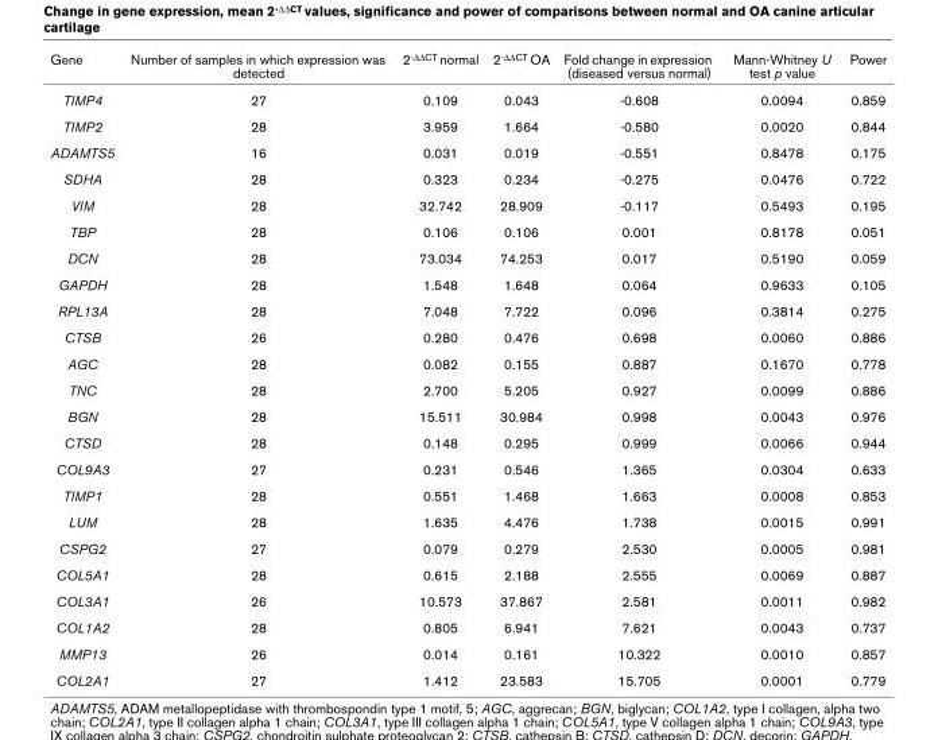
<table><thead><tr><td>Gene</td><td>Number of samples in which expression was detected</td><td>2-ΔΔCT normal</td><td>2-ΔΔCT OA</td><td>Fold change in expression (diseased versus normal)</td><td>Mann-Whitney U test p value</td><td>Power</td></tr></thead><tbody><tr><td>TIMP4</td><td>27</td><td>0.109</td><td>0.043</td><td>-0.608</td><td>0.0094</td><td>0.859</td></tr><tr><td>TIMP2</td><td>28</td><td>3.959</td><td>1.664</td><td>-0.580</td><td>0.0020</td><td>0.844</td></tr><tr><td>ADAMTS5</td><td>16</td><td>0.031</td><td>0.019</td><td>-0.551</td><td>0.8478</td><td>0.175</td></tr><tr><td>SDHA</td><td>28</td><td>0.323</td><td>0.234</td><td>-0.275</td><td>0.0476</td><td>0.722</td></tr><tr><td>VIM</td><td>28</td><td>32.742</td><td>28.909</td><td>-0.117</td><td>0.5493</td><td>0.195</td></tr><tr><td>TBP</td><td>28</td><td>0.106</td><td>0.106</td><td>0.001</td><td>0.8178</td><td>0.051</td></tr><tr><td>DCN</td><td>28</td><td>73.034</td><td>74.253</td><td>0.017</td><td>0.5190</td><td>0.059</td></tr><tr><td>GAPDH</td><td>28</td><td>1.548</td><td>1.648</td><td>0.064</td><td>0.9633</td><td>0.105</td></tr><tr><td>RPL13A</td><td>28</td><td>7.048</td><td>7.722</td><td>0.096</td><td>0.3814</td><td>0.275</td></tr><tr><td>CTSB</td><td>26</td><td>0.280</td><td>0.476</td><td>0.698</td><td>0.0060</td><td>0.886</td></tr><tr><td>AGC</td><td>28</td><td>0.082</td><td>0.155</td><td>0.887</td><td>0.1670</td><td>0.778</td></tr><tr><td>TNC</td><td>28</td><td>2.700</td><td>5.205</td><td>0.927</td><td>0.0099</td><td>0.886</td></tr><tr><td>BGN</td><td>28</td><td>15.511</td><td>30.984</td><td>0.998</td><td>0.0043</td><td>0.976</td></tr><tr><td>CTSD</td><td>28</td><td>0.148</td><td>0.295</td><td>0.999</td><td>0.0066</td><td>0.944</td></tr><tr><td>COL9A3</td><td>27</td><td>0.231</td><td>0.546</td><td>1.365</td><td>0.0304</td><td>0.633</td></tr><tr><td>TIMP1</td><td>28</td><td>0.551</td><td>1.468</td><td>1.663</td><td>0.0008</td><td>0.853</td></tr><tr><td>LUM</td><td>28</td><td>1.635</td><td>4.476</td><td>1.738</td><td>0.0015</td><td>0.991</td></tr><tr><td>CSPG2</td><td>27</td><td>0.079</td><td>0.279</td><td>2.530</td><td>0.0005</td><td>0.981</td></tr><tr><td>COL5A1</td><td>28</td><td>0.615</td><td>2.188</td><td>2.555</td><td>0.0069</td><td>0.887</td></tr><tr><td>COL3A1</td><td>26</td><td>10.573</td><td>37.867</td><td>2.581</td><td>0.0011</td><td>0.982</td></tr><tr><td>COL1A2</td><td>28</td><td>0.805</td><td>6.941</td><td>7.621</td><td>0.0043</td><td>0.737</td></tr><tr><td>MMP13</td><td>26</td><td>0.014</td><td>0.161</td><td>10.322</td><td>0.0010</td><td>0.857</td></tr><tr><td>COL2A1</td><td>27</td><td>1.412</td><td>23.583</td><td>15.705</td><td>0.0001</td><td>0.779</td></tr></tbody></table>